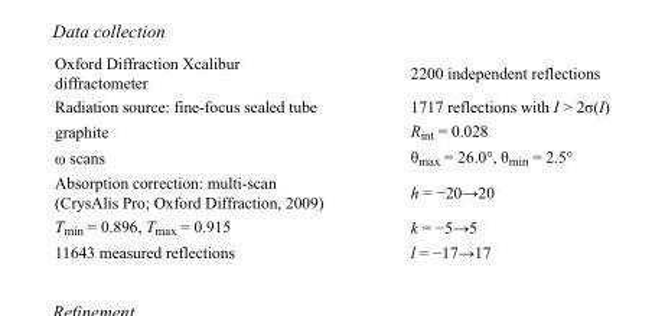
<table><tbody><tr><td>Oxford Diffraction Xcalibur diffractometer</td><td>2200 independent reflections</td></tr><tr><td>Radiation source: fine-focus sealed tube</td><td>1717 reflections with I &gt; 2σ(I)</td></tr><tr><td>graphite</td><td>R<sub>int</sub> = 0.028</td></tr><tr><td>ω scans</td><td>θ<sub>max</sub> = 26.0°, θ<sub>min</sub> = 2.5°</td></tr><tr><td>Absorption correction: multi-scan (CrysAlis Pro; Oxford Diffraction, 2009)</td><td>h = −20→20</td></tr><tr><td>T<sub>min</sub> = 0.896, T<sub>max</sub> = 0.915</td><td>k = −5→5</td></tr><tr><td>11643 measured reflections</td><td>l = −17→17</td></tr></tbody></table>